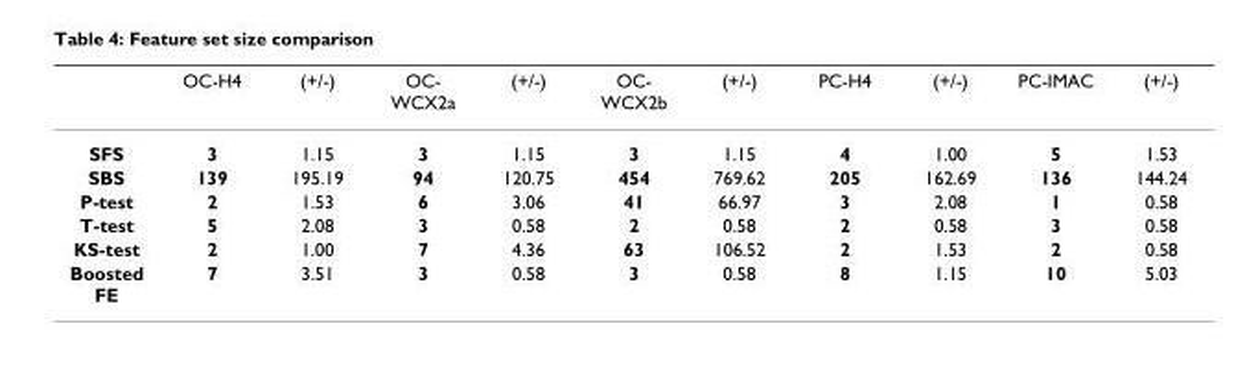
<table><thead><tr><td></td><td>OC-H4</td><td>(+/-)</td><td>OC- WCX2a</td><td>(+/-)</td><td>OC- WCX2b</td><td>(+/-)</td><td>PC-H4</td><td>(+/-)</td><td>PC-IMAC</td><td>(+/-)</td></tr></thead><tbody><tr><td>SFS</td><td>3</td><td>1.15</td><td>3</td><td>1.15</td><td>3</td><td>1.15</td><td>4</td><td>1.00</td><td>5</td><td>1.53</td></tr><tr><td>SBS</td><td>139</td><td>195.19</td><td>94</td><td>120.75</td><td>454</td><td>769.62</td><td>205</td><td>162.69</td><td>136</td><td>144.24</td></tr><tr><td>P-test</td><td>2</td><td>1.53</td><td>6</td><td>3.06</td><td>41</td><td>66.97</td><td>3</td><td>2.08</td><td>1</td><td>0.58</td></tr><tr><td>T-test</td><td>5</td><td>2.08</td><td>3</td><td>0.58</td><td>2</td><td>0.58</td><td>2</td><td>0.58</td><td>3</td><td>0.58</td></tr><tr><td>KS-test</td><td>2</td><td>1.00</td><td>7</td><td>4.36</td><td>63</td><td>106.52</td><td>2</td><td>1.53</td><td>2</td><td>0.58</td></tr><tr><td>Boosted FE</td><td>7</td><td>3.51</td><td>3</td><td>0.58</td><td>3</td><td>0.58</td><td>8</td><td>1.15</td><td>10</td><td>5.03</td></tr></tbody></table>